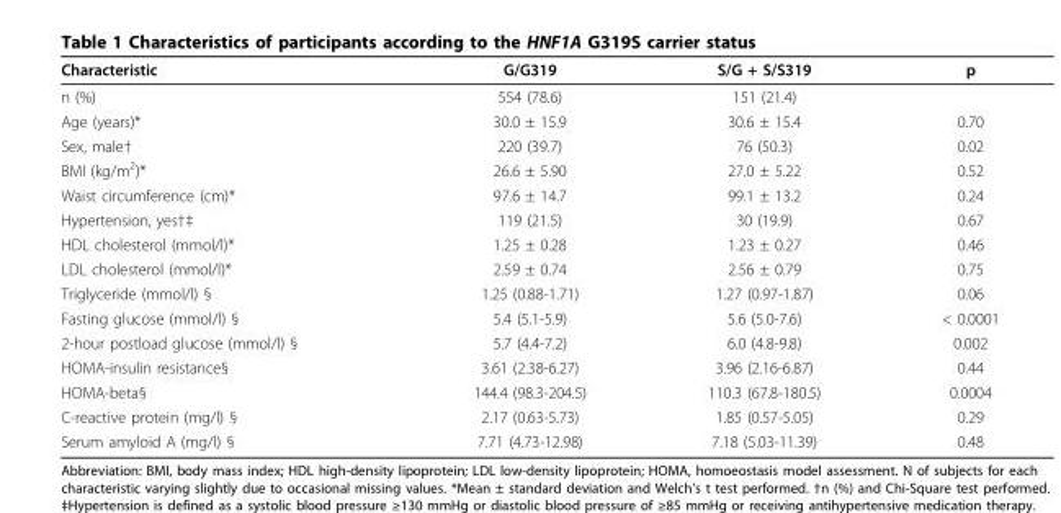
<table><thead><tr><td>Characteristic</td><td>G/G319</td><td>S/G + S/S319</td><td>p</td></tr></thead><tbody><tr><td>n (%)</td><td>554 (78.6)</td><td>151 (21.4)</td><td></td></tr><tr><td>Age (years)*</td><td>30.0 ± 15.9</td><td>30.6 ± 15.4</td><td>0.70</td></tr><tr><td>Sex, male†</td><td>220 (39.7)</td><td>76 (50.3)</td><td>0.02</td></tr><tr><td>BMI (kg/m<sup>2</sup>)*</td><td>26.6 ± 5.90</td><td>27.0 ± 5.22</td><td>0.52</td></tr><tr><td>Waist circumference (cm)*</td><td>97.6 ± 14.7</td><td>99.1 ± 13.2</td><td>0.24</td></tr><tr><td>Hypertension, yes†‡</td><td>119 (21.5)</td><td>30 (19.9)</td><td>0.67</td></tr><tr><td>HDL cholesterol (mmol/l)*</td><td>1.25 ± 0.28</td><td>1.23 ± 0.27</td><td>0.46</td></tr><tr><td>LDL cholesterol (mmol/l)*</td><td>2.59 ± 0.74</td><td>2.56 ± 0.79</td><td>0.75</td></tr><tr><td>Triglyceride (mmol/l) §</td><td>1.25 (0.88-1.71)</td><td>1.27 (0.97-1.87)</td><td>0.06</td></tr><tr><td>Fasting glucose (mmol/l) §</td><td>5.4 (5.1-5.9)</td><td>5.6 (5.0-7.6)</td><td>&lt; 0.0001</td></tr><tr><td>2-hour postload glucose (mmol/l) §</td><td>5.7 (4.4-7.2)</td><td>6.0 (4.8-9.8)</td><td>0.002</td></tr><tr><td>HOMA-insulin resistance§</td><td>3.61 (2.38-6.27)</td><td>3.96 (2.16-6.87)</td><td>0.44</td></tr><tr><td>HOMA-beta§</td><td>144.4 (98.3-204.5)</td><td>110.3 (67.8-180.5)</td><td>0.0004</td></tr><tr><td>C-reactive protein (mg/l) §</td><td>2.17 (0.63-5.73)</td><td>1.85 (0.57-5.05)</td><td>0.29</td></tr><tr><td>Serum amyloid A (mg/l) §</td><td>7.71 (4.73-12.98)</td><td>7.18 (5.03-11.39)</td><td>0.48</td></tr></tbody></table>